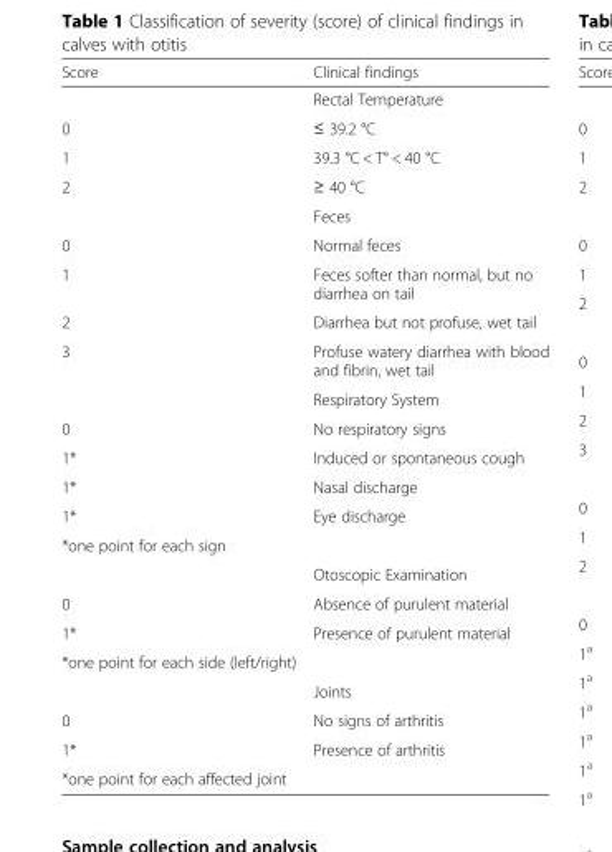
<table><thead><tr><td>Score</td><td>Clinical findings</td></tr></thead><tbody><tr><td></td><td>Rectal Temperature</td></tr><tr><td>0</td><td>≤ 39.2 °C</td></tr><tr><td>1</td><td>39.3 °C &lt; T° &lt; 40 °C</td></tr><tr><td rowspan="2">2</td><td>≥ 40 °C</td></tr><tr><td>Feces</td></tr><tr><td>0</td><td>Normal feces</td></tr><tr><td>1</td><td>Feces softer than normal, but no diarrhea on tail</td></tr><tr><td>2</td><td>Diarrhea but not profuse, wet tail</td></tr><tr><td rowspan="2">3</td><td>Profuse watery diarrhea with blood and fibrin, wet tail</td></tr><tr><td>Respiratory System</td></tr><tr><td>0</td><td>No respiratory signs</td></tr><tr><td>1*</td><td>Induced or spontaneous cough</td></tr><tr><td>1*</td><td>Nasal discharge</td></tr><tr><td>1*</td><td>Eye discharge</td></tr><tr><td colspan="2">*one point for each sign</td></tr><tr><td></td><td>Otoscopic Examination</td></tr><tr><td>0</td><td>Absence of purulent material</td></tr><tr><td>1*</td><td>Presence of purulent material</td></tr><tr><td colspan="2">*one point for each side (left/right)</td></tr><tr><td></td><td>Joints</td></tr><tr><td>0</td><td>No signs of arthritis</td></tr><tr><td>1*</td><td>Presence of arthritis</td></tr><tr><td>*one point for each affected joint</td><td></td></tr></tbody></table>